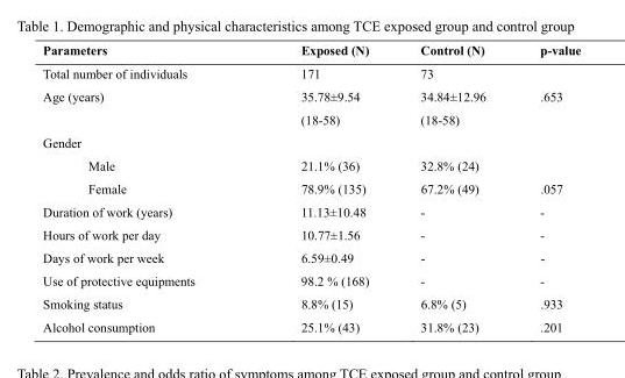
<table><thead><tr><td>Parameters</td><td>Exposed (N)</td><td>Control (N)</td><td>p-value</td></tr></thead><tbody><tr><td>Total number of individuals</td><td>171</td><td>73</td><td></td></tr><tr><td rowspan="2">Age (years)</td><td>35.78±9.54</td><td>34.84±12.96</td><td>.653</td></tr><tr><td>(18-58)</td><td>(18-58)</td><td></td></tr><tr><td colspan="4">Gender</td></tr><tr><td>Male</td><td>21.1% (36)</td><td>32.8% (24)</td><td></td></tr><tr><td>Female</td><td>78.9% (135)</td><td>67.2% (49)</td><td>.057</td></tr><tr><td>Duration of work (years)</td><td>11.13±10.48</td><td>-</td><td>-</td></tr><tr><td>Hours of work per day</td><td>10.77±1.56</td><td>-</td><td>-</td></tr><tr><td>Days of work per week</td><td>6.59±0.49</td><td>-</td><td>-</td></tr><tr><td>Use of protective equipments</td><td>98.2 % (168)</td><td>-</td><td>-</td></tr><tr><td>Smoking status</td><td>8.8% (15)</td><td>6.8% (5)</td><td>.933</td></tr><tr><td>Alcohol consumption</td><td>25.1% (43)</td><td>31.8% (23)</td><td>.201</td></tr></tbody></table>